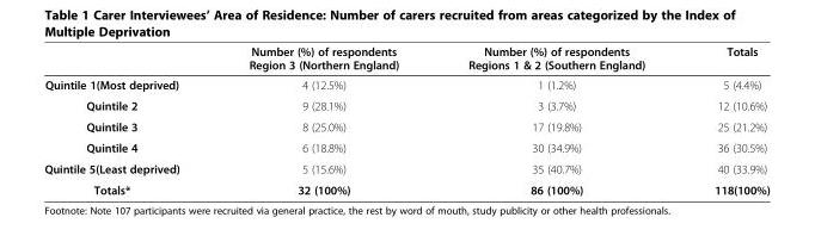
<table><thead><tr><td></td><td>Number (%) of respondents Region 3 (Northern England)</td><td>Number (%) of respondents Regions 1 &amp; 2 (Southern England)</td><td>Totals</td></tr></thead><tbody><tr><td>Quintile 1(Most deprived)</td><td>4 (12.5%)</td><td>1 (1.2%)</td><td>5 (4.4%)</td></tr><tr><td>Quintile 2</td><td>9 (28.1%)</td><td>3 (3.7%)</td><td>12 (10.6%)</td></tr><tr><td>Quintile 3</td><td>8 (25.0%)</td><td>17 (19.8%)</td><td>25 (21.2%)</td></tr><tr><td>Quintile 4</td><td>6 (18.8%)</td><td>30 (34.9%)</td><td>36 (30.5%)</td></tr><tr><td>Quintile 5(Least deprived)</td><td>5 (15.6%)</td><td>35 (40.7%)</td><td>40 (33.9%)</td></tr><tr><td>Totals*</td><td>32 (100%)</td><td>86 (100%)</td><td>118(100%)</td></tr></tbody></table>